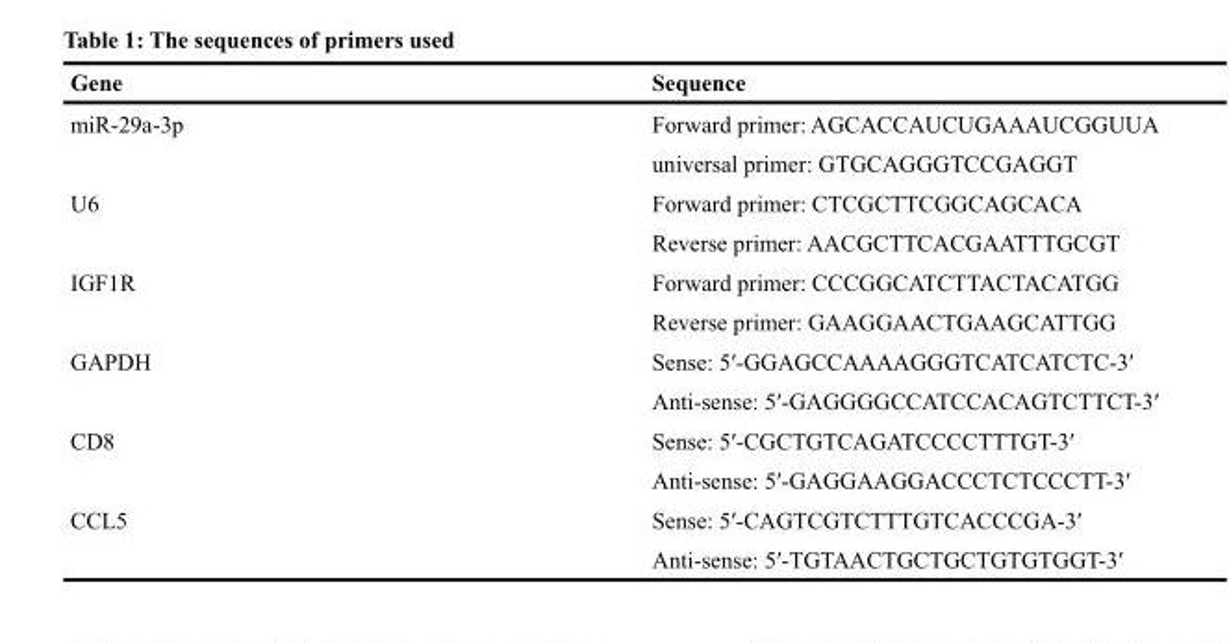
<table><thead><tr><td>Gene</td><td>Sequence</td></tr></thead><tbody><tr><td rowspan="2">miR-29a-3p</td><td>Forward primer: AGCACCAUCUGAAAUCGGUUA</td></tr><tr><td>universal primer: GTGCAGGGTCCGAGGT</td></tr><tr><td rowspan="2">U6</td><td>Forward primer: CTCGCTTCGGCAGCACA</td></tr><tr><td>Reverse primer: AACGCTTCACGAATTTGCGT</td></tr><tr><td rowspan="2">IGF1R</td><td>Forward primer: CCCGGCATCTTACTACATGG</td></tr><tr><td>Reverse primer: GAAGGAACTGAAGCATTGG</td></tr><tr><td rowspan="2">GAPDH</td><td>Sense: 5′-GGAGCCAAAAGGGTCATCATCTC-3′</td></tr><tr><td>Anti-sense: 5′-GAGGGGCCATCCACAGTCTTCT-3′</td></tr><tr><td rowspan="2">CD8</td><td>Sense: 5′-CGCTGTCAGATCCCCTTTGT-3′</td></tr><tr><td>Anti-sense: 5′-GAGGAAGGACCCTCTCCCTT-3′</td></tr><tr><td rowspan="2">CCL5</td><td>Sense: 5′-CAGTCGTCTTTGTCACCCGA-3′</td></tr><tr><td>Anti-sense: 5′-TGTAACTGCTGCTGTGTGGT-3′</td></tr></tbody></table>